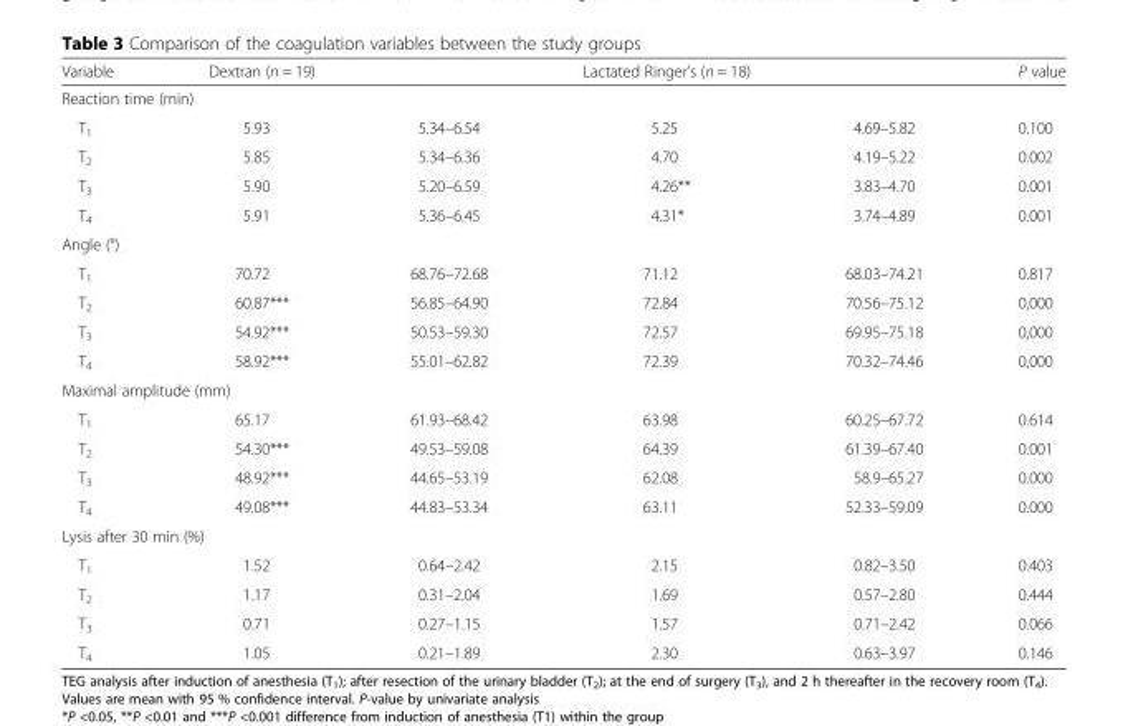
<table><thead><tr><td>Variable</td><td>Dextran (n = 19)</td><td></td><td>Lactated Ringer’s (n = 18)</td><td></td><td>P value</td></tr></thead><tbody><tr><td colspan="6">Reaction time (min)</td></tr><tr><td>T<sub>1</sub></td><td>5.93</td><td>5.34–6.54</td><td>5.25</td><td>4.69–5.82</td><td>0.100</td></tr><tr><td>T<sub>2</sub></td><td>5.85</td><td>5.34–6.36</td><td>4.70</td><td>4.19–5.22</td><td>0.002</td></tr><tr><td>T<sub>3</sub></td><td>5.90</td><td>5.20–6.59</td><td>4.26**</td><td>3.83–4.70</td><td>0.001</td></tr><tr><td>T<sub>4</sub></td><td>5.91</td><td>5.36–6.45</td><td>4.31*</td><td>3.74–4.89</td><td>0.001</td></tr><tr><td colspan="6">Angle (°)</td></tr><tr><td>T<sub>1</sub></td><td>70.72</td><td>68.76–72.68</td><td>71.12</td><td>68.03–74.21</td><td>0.817</td></tr><tr><td>T<sub>2</sub></td><td>60.87***</td><td>56.85–64.90</td><td>72.84</td><td>70.56–75.12</td><td>0,000</td></tr><tr><td>T<sub>3</sub></td><td>54.92***</td><td>50.53–59.30</td><td>72.57</td><td>69.95–75.18</td><td>0,000</td></tr><tr><td>T<sub>4</sub></td><td>58.92***</td><td>55.01–62.82</td><td>72.39</td><td>70.32–74.46</td><td>0,000</td></tr><tr><td colspan="6">Maximal amplitude (mm)</td></tr><tr><td>T<sub>1</sub></td><td>65.17</td><td>61.93–68.42</td><td>63.98</td><td>60.25–67.72</td><td>0.614</td></tr><tr><td>T<sub>2</sub></td><td>54.30***</td><td>49.53–59.08</td><td>64.39</td><td>61.39–67.40</td><td>0.001</td></tr><tr><td>T<sub>3</sub></td><td>48.92***</td><td>44.65–53.19</td><td>62.08</td><td>58.9–65.27</td><td>0.000</td></tr><tr><td>T<sub>4</sub></td><td>49.08***</td><td>44.83–53.34</td><td>63.11</td><td>52.33–59.09</td><td>0.000</td></tr><tr><td colspan="6">Lysis after 30 min (%)</td></tr><tr><td>T<sub>1</sub></td><td>1.52</td><td>0.64–2.42</td><td>2.15</td><td>0.82–3.50</td><td>0.403</td></tr><tr><td>T<sub>2</sub></td><td>1.17</td><td>0.31–2.04</td><td>1.69</td><td>0.57–2.80</td><td>0.444</td></tr><tr><td>T<sub>3</sub></td><td>0.71</td><td>0.27–1.15</td><td>1.57</td><td>0.71–2.42</td><td>0.066</td></tr><tr><td>T<sub>4</sub></td><td>1.05</td><td>0.21–1.89</td><td>2.30</td><td>0.63–3.97</td><td>0.146</td></tr></tbody></table>